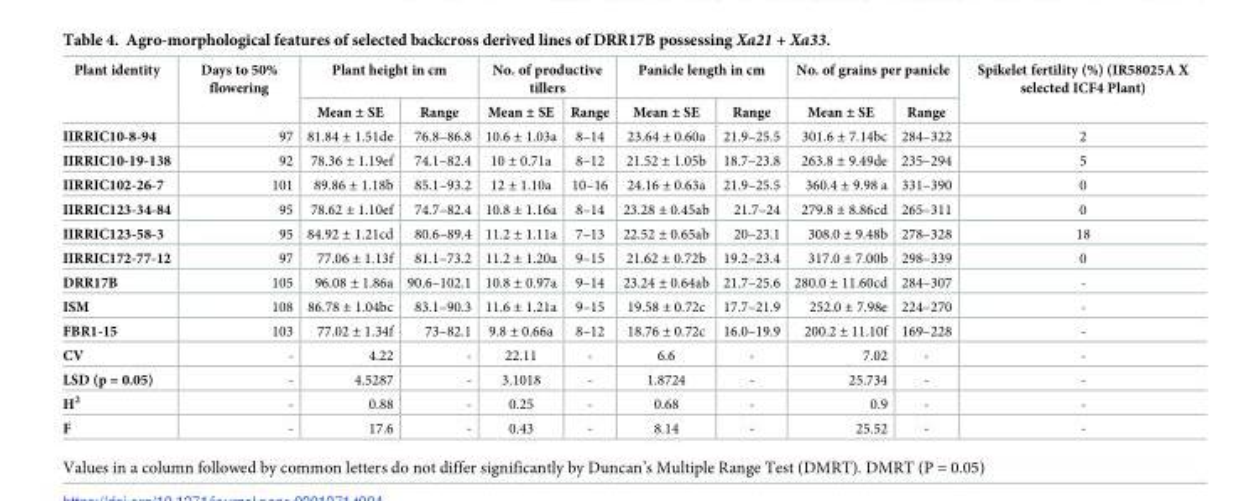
<table><thead><tr><td rowspan="2">Plant identity</td><td rowspan="2">Days to 50% flowering</td><td colspan="2">Plant height in cm</td><td colspan="2">No. of productive tillers</td><td colspan="2">Panicle length in cm</td><td colspan="2">No. of grains per panicle</td><td rowspan="2">Spikelet fertility (%) (IR58025A X selected ICF4 Plant)</td></tr><tr><td>Mean ± SE</td><td>Range</td><td>Mean ± SE</td><td>Range</td><td>Mean ± SE</td><td>Range</td><td>Mean ± SE</td><td>Range</td></tr></thead><tbody><tr><td>IIRRIC10-8-94</td><td>97</td><td>81.84 ± 1.51de</td><td>76.8–86.8</td><td>10.6 ± 1.03a</td><td>8–14</td><td>23.64 ± 0.60a</td><td>21.9–25.5</td><td>301.6 ± 7.14bc</td><td>284–322</td><td>2</td></tr><tr><td>IIRRIC10-19-138</td><td>92</td><td>78.36 ± 1.19ef</td><td>74.1–82.4</td><td>10 ± 0.71a</td><td>8–12</td><td>21.52 ± 1.05b</td><td>18.7–23.8</td><td>263.8 ± 9.49de</td><td>235–294</td><td>5</td></tr><tr><td>IIRRIC102-26-7</td><td>101</td><td>89.86 ± 1.18b</td><td>85.1–93.2</td><td>12 ± 1.10a</td><td>10–16</td><td>24.16 ± 0.63a</td><td>21.9–25.5</td><td>360.4 ± 9.98 a</td><td>331–390</td><td>0</td></tr><tr><td>IIRRIC123-34-84</td><td>95</td><td>78.62 ± 1.10ef</td><td>74.7–82.4</td><td>10.8 ± 1.16a</td><td>8–14</td><td>23.28 ± 0.45ab</td><td>21.7–24</td><td>279.8 ± 8.86cd</td><td>265–311</td><td>0</td></tr><tr><td>IIRRIC123-58-3</td><td>95</td><td>84.92 ± 1.21cd</td><td>80.6–89.4</td><td>11.2 ± 1.11a</td><td>7–13</td><td>22.52 ± 0.65ab</td><td>20–23.1</td><td>308.0 ± 9.48b</td><td>278–328</td><td>18</td></tr><tr><td>IIRRIC172-77-12</td><td>97</td><td>77.06 ± 1.13f</td><td>81.1–73.2</td><td>11.2 ± 1.20a</td><td>9–15</td><td>21.62 ± 0.72b</td><td>19.2–23.4</td><td>317.0 ± 7.00b</td><td>298–339</td><td>0</td></tr><tr><td>DRR17B</td><td>105</td><td>96.08 ± 1.86a</td><td>90.6–102.1</td><td>10.8 ± 0.97a</td><td>9–14</td><td>23.24 ± 0.64ab</td><td>21.7–25.6</td><td>280.0 ± 11.60cd</td><td>284–307</td><td>-</td></tr><tr><td>ISM</td><td>108</td><td>86.78 ± 1.04bc</td><td>83.1–90.3</td><td>11.6 ± 1.21a</td><td>9–15</td><td>19.58 ± 0.72c</td><td>17.7–21.9</td><td>252.0 ± 7.98e</td><td>224–270</td><td>-</td></tr><tr><td>FBR1-15</td><td>103</td><td>77.02 ± 1.34f</td><td>73–82.1</td><td>9.8 ± 0.66a</td><td>8–12</td><td>18.76 ± 0.72c</td><td>16.0–19.9</td><td>200.2 ± 11.10f</td><td>169–228</td><td>-</td></tr><tr><td>CV</td><td>-</td><td>4.22</td><td>-</td><td>22.11</td><td>-</td><td>6.6</td><td>-</td><td>7.02</td><td>-</td><td>-</td></tr><tr><td>LSD (p = 0.05)</td><td>-</td><td>4.5287</td><td>-</td><td>3.1018</td><td>-</td><td>1.8724</td><td>-</td><td>25.734</td><td>-</td><td>-</td></tr><tr><td>H<sup>2</sup></td><td>-</td><td>0.88</td><td>-</td><td>0.25</td><td>-</td><td>0.68</td><td>-</td><td>0.9</td><td>-</td><td>-</td></tr><tr><td>F</td><td>-</td><td>17.6</td><td>-</td><td>0.43</td><td>-</td><td>8.14</td><td>-</td><td>25.52</td><td>-</td><td>-</td></tr></tbody></table>